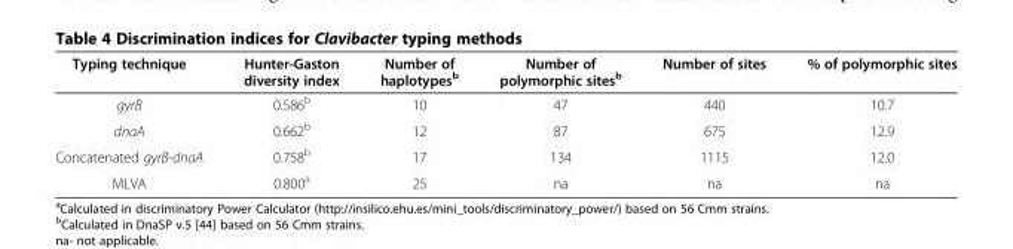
<table><thead><tr><td>Typing technique</td><td>Hunter-Gaston diversity index</td><td>Number of haplotypes<sup>b</sup></td><td>Number of polymorphic sites<sup>b</sup></td><td>Number of sites</td><td>% of polymorphic sites</td></tr></thead><tbody><tr><td>gyrB</td><td>0.586<sup>b</sup></td><td>10</td><td>47</td><td>440</td><td>10.7</td></tr><tr><td>dnaA</td><td>0.662<sup>b</sup></td><td>12</td><td>87</td><td>675</td><td>12.9</td></tr><tr><td>Concatenated gyrB-dnaA</td><td>0.758<sup>b</sup></td><td>17</td><td>134</td><td>1115</td><td>12.0</td></tr><tr><td>MLVA</td><td>0.800<sup>a</sup></td><td>25</td><td>na</td><td>na</td><td>na</td></tr></tbody></table>